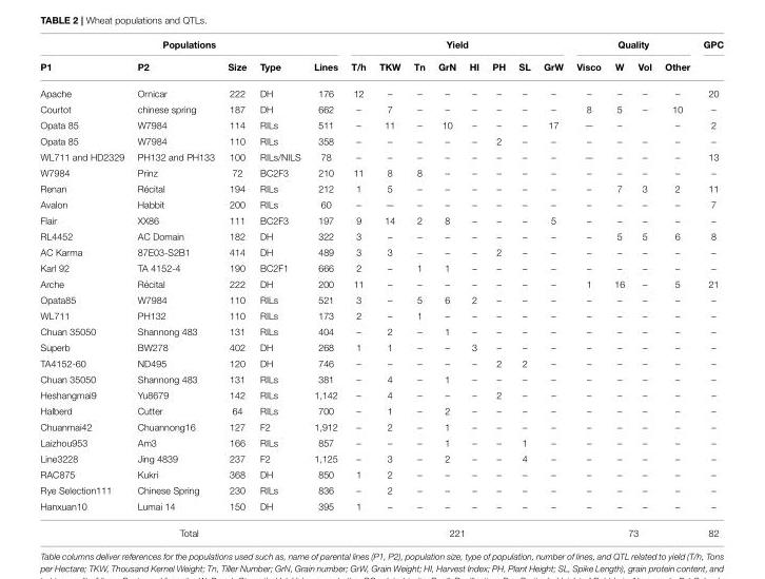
<table><thead><tr><td colspan="5">Populations</td><td colspan="8">Yield</td><td colspan="4">Quality</td><td rowspan="2">GPC</td></tr><tr><td>P1</td><td>P2</td><td>Size</td><td>Type</td><td>Lines</td><td>T/h</td><td>TKW</td><td>Tn</td><td>GrN</td><td>HI</td><td>PH</td><td>SL</td><td>GrW</td><td>Visco</td><td>W</td><td>Vol</td><td>Other</td></tr></thead><tbody><tr><td>Apache</td><td>Ornicar</td><td>222</td><td>DH</td><td>176</td><td>12</td><td>–</td><td>–</td><td>–</td><td>–</td><td>–</td><td>–</td><td>–</td><td>–</td><td>–</td><td>–</td><td>–</td><td>20</td></tr><tr><td>Courtot</td><td>chinese spring</td><td>187</td><td>DH</td><td>662</td><td>–</td><td>7</td><td>–</td><td>–</td><td>–</td><td>–</td><td>–</td><td>–</td><td>8</td><td>5</td><td>–</td><td>10</td><td>–</td></tr><tr><td>Opata 85</td><td>W7984</td><td>114</td><td>RILs</td><td>511</td><td>–</td><td>11</td><td>–</td><td>10</td><td>–</td><td>–</td><td>–</td><td>17</td><td>—</td><td>–</td><td></td><td>–</td><td>2</td></tr><tr><td>Opata 85</td><td>W7984</td><td>110</td><td>RILs</td><td>358</td><td>–</td><td>–</td><td>–</td><td>–</td><td>–</td><td>2</td><td>–</td><td>–</td><td>–</td><td>–</td><td>–</td><td>–</td><td>–</td></tr><tr><td>WL711 and HD2329</td><td>PH132 and PH133</td><td>100</td><td>RILs/NILS</td><td>78</td><td>–</td><td>–</td><td>–</td><td>–</td><td>–</td><td>–</td><td>–</td><td>–</td><td>—</td><td>–</td><td>–</td><td>–</td><td>13</td></tr><tr><td>W7984</td><td>Prinz</td><td>72</td><td>BC2F3</td><td>210</td><td>11</td><td>8</td><td>8</td><td>–</td><td>–</td><td>–</td><td>–</td><td>–</td><td>–</td><td>–</td><td>–</td><td>–</td><td>–</td></tr><tr><td>Renan</td><td>Récital</td><td>194</td><td>RILs</td><td>212</td><td>1</td><td>5</td><td>–</td><td>–</td><td>–</td><td>–</td><td>–</td><td>–</td><td>–</td><td>7</td><td>3</td><td>2</td><td>11</td></tr><tr><td>Avalon</td><td>Habbit</td><td>200</td><td>RILs</td><td>60</td><td>–</td><td>—</td><td>–</td><td>–</td><td>–</td><td>–</td><td>–</td><td>–</td><td>–</td><td>–</td><td>–</td><td>–</td><td>7</td></tr><tr><td>Flair</td><td>XX86</td><td>111</td><td>BC2F3</td><td>197</td><td>9</td><td>14</td><td>2</td><td>8</td><td>–</td><td>–</td><td>–</td><td>5</td><td>–</td><td>–</td><td>–</td><td>–</td><td>–</td></tr><tr><td>RL4452</td><td>AC Domain</td><td>182</td><td>DH</td><td>322</td><td>3</td><td>–</td><td>–</td><td>–</td><td>–</td><td>–</td><td>–</td><td>–</td><td>–</td><td>5</td><td>5</td><td>6</td><td>8</td></tr><tr><td>AC Karma</td><td>87E03-S2B1</td><td>414</td><td>DH</td><td>489</td><td>3</td><td>3</td><td>–</td><td>–</td><td>–</td><td>2</td><td>–</td><td>–</td><td>–</td><td>–</td><td>–</td><td>–</td><td>–</td></tr><tr><td>Karl 92</td><td>TA 4152-4</td><td>190</td><td>BC2F1</td><td>666</td><td>2</td><td>–</td><td>1</td><td>1</td><td>–</td><td>–</td><td>–</td><td>–</td><td>–</td><td>–</td><td>–</td><td>–</td><td>–</td></tr><tr><td>Arche</td><td>Récital</td><td>222</td><td>DH</td><td>200</td><td>11</td><td>–</td><td>–</td><td>–</td><td>–</td><td>–</td><td>–</td><td>–</td><td>1</td><td>16</td><td>–</td><td>5</td><td>21</td></tr><tr><td>Opata85</td><td>W7984</td><td>110</td><td>RILs</td><td>521</td><td>3</td><td>–</td><td>5</td><td>6</td><td>2</td><td>–</td><td>–</td><td>–</td><td>–</td><td>–</td><td>–</td><td>–</td><td>–</td></tr><tr><td>WL711</td><td>PH132</td><td>110</td><td>RILs</td><td>173</td><td>2</td><td>–</td><td>1</td><td>–</td><td>–</td><td>–</td><td>–</td><td>–</td><td>–</td><td>–</td><td>–</td><td>–</td><td>–</td></tr><tr><td>Chuan 35050</td><td>Shannong 483</td><td>131</td><td>RILs</td><td>404</td><td>–</td><td>2</td><td>–</td><td>1</td><td>–</td><td>–</td><td>–</td><td>–</td><td>–</td><td>–</td><td>–</td><td>–</td><td>–</td></tr><tr><td>Superb</td><td>BW278</td><td>402</td><td>DH</td><td>268</td><td>1</td><td>1</td><td>–</td><td>–</td><td>3</td><td>–</td><td>–</td><td>–</td><td>–</td><td>–</td><td>–</td><td>–</td><td>–</td></tr><tr><td>TA4152-60</td><td>ND495</td><td>120</td><td>DH</td><td>746</td><td>–</td><td>–</td><td>–</td><td>–</td><td>–</td><td>2</td><td>2</td><td>–</td><td>–</td><td>–</td><td>–</td><td>–</td><td>–</td></tr><tr><td>Chuan 35050</td><td>Shannong 483</td><td>131</td><td>RILs</td><td>381</td><td>–</td><td>4</td><td>–</td><td>1</td><td>–</td><td>–</td><td>–</td><td>–</td><td>–</td><td>–</td><td>–</td><td>–</td><td>–</td></tr><tr><td>Heshangmai9</td><td>Yu8679</td><td>142</td><td>RILs</td><td>1,142</td><td>–</td><td>4</td><td>–</td><td>–</td><td>–</td><td>2</td><td>–</td><td>–</td><td>–</td><td>–</td><td>–</td><td>–</td><td>–</td></tr><tr><td>Halberd</td><td>Cutter</td><td>64</td><td>RILs</td><td>700</td><td>–</td><td>1</td><td>–</td><td>2</td><td>–</td><td>–</td><td>–</td><td>–</td><td>–</td><td>–</td><td>–</td><td>–</td><td>–</td></tr><tr><td>Chuanmai42</td><td>Chuannong16</td><td>127</td><td>F2</td><td>1,912</td><td>–</td><td>2</td><td>–</td><td>1</td><td>–</td><td>–</td><td>–</td><td>–</td><td>–</td><td>–</td><td>–</td><td>–</td><td>–</td></tr><tr><td>Laizhou953</td><td>Am3</td><td>166</td><td>RILs</td><td>857</td><td>–</td><td>–</td><td>–</td><td>1</td><td>–</td><td>–</td><td>1</td><td>–</td><td>–</td><td>–</td><td>–</td><td>–</td><td>–</td></tr><tr><td>Line3228</td><td>Jing 4839</td><td>237</td><td>F2</td><td>1,125</td><td>–</td><td>3</td><td>–</td><td>2</td><td>–</td><td>–</td><td>4</td><td>–</td><td>–</td><td>–</td><td>–</td><td>–</td><td>–</td></tr><tr><td>RAC875</td><td>Kukri</td><td>368</td><td>DH</td><td>850</td><td>1</td><td>2</td><td>–</td><td>–</td><td>–</td><td>–</td><td>–</td><td>–</td><td>–</td><td>–</td><td>–</td><td>–</td><td>–</td></tr><tr><td>Rye Selection111</td><td>Chinese Spring</td><td>230</td><td>RILs</td><td>836</td><td>–</td><td>2</td><td>–</td><td>–</td><td>–</td><td>–</td><td>–</td><td>–</td><td>–</td><td>–</td><td>–</td><td>–</td><td>–</td></tr><tr><td>Hanxuan10</td><td>Lumai 14</td><td>150</td><td>DH</td><td>395</td><td>1</td><td>–</td><td>–</td><td>–</td><td>–</td><td>–</td><td>–</td><td>–</td><td>–</td><td>–</td><td>–</td><td>–</td><td>–</td></tr><tr><td colspan="5">Total</td><td colspan="8">221</td><td colspan="4">73</td><td>82</td></tr></tbody></table>